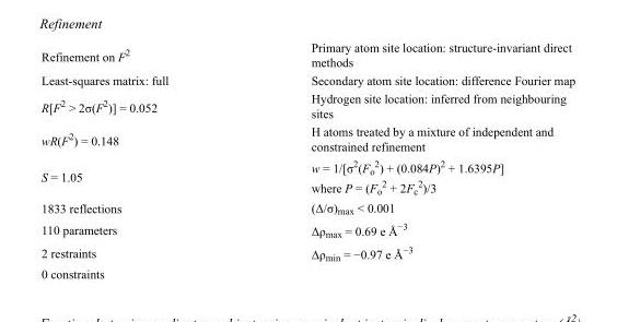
<table><tbody><tr><td>Refinement on F<sup>2</sup></td><td>Primary atom site location: structure-invariant direct methods</td></tr><tr><td>Least-squares matrix: full</td><td>Secondary atom site location: difference Fourier map</td></tr><tr><td>R[F<sup>2</sup> &gt; 2σ(F<sup>2</sup>)] = 0.052</td><td>Hydrogen site location: inferred from neighbouring sites</td></tr><tr><td>wR(F<sup>2</sup>) = 0.148</td><td>H atoms treated by a mixture of independent and constrained refinement</td></tr><tr><td>S = 1.05</td><td>w = 1/[σ<sup>2</sup>(F<sub>o</sub> <sup>2</sup>) + (0.084P)<sup>2</sup> + 1.6395P] where P = (F<sub>o</sub> <sup>2</sup> + 2F<sub>c</sub> <sup>2</sup>)/3</td></tr><tr><td>1833 reflections</td><td>(Δ/σ)<sub>max</sub> &lt; 0.001</td></tr><tr><td>110 parameters</td><td>Δρ<sub>max</sub> = 0.69 e Å<sup>−3</sup></td></tr><tr><td>2 restraints</td><td>Δρ<sub>min</sub> = −0.97 e Å<sup>−3</sup></td></tr><tr><td>0 constraints</td><td></td></tr></tbody></table>